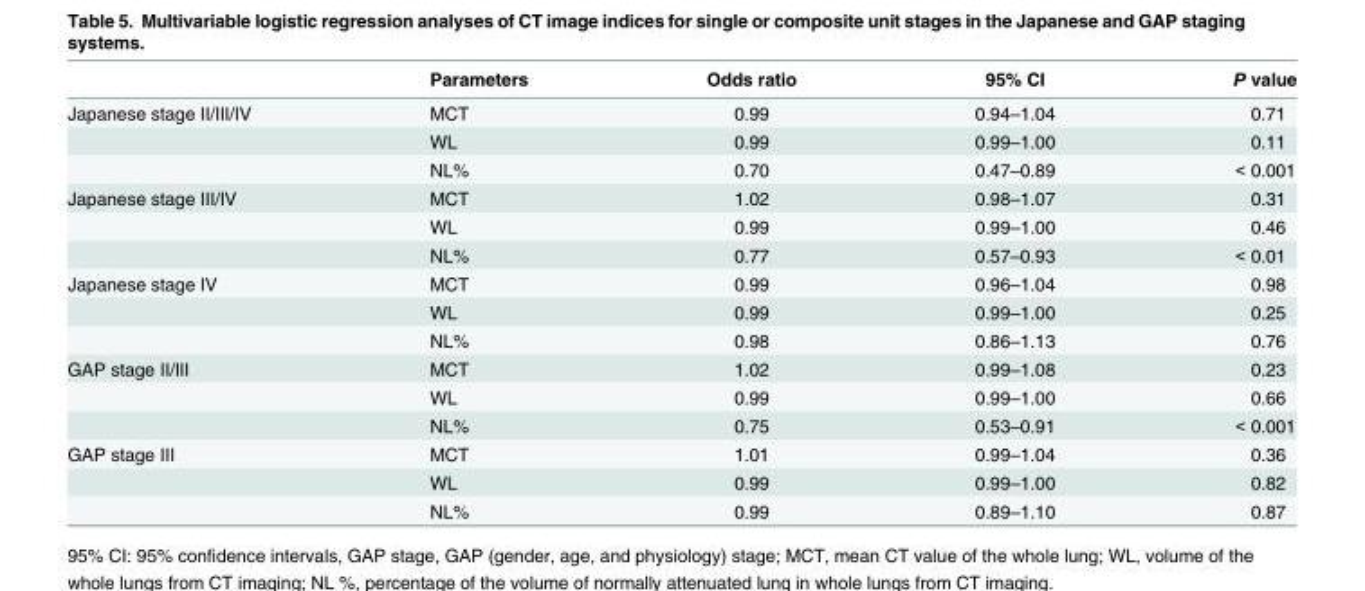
<table><thead><tr><td></td><td>Parameters</td><td>Odds ratio</td><td>95% CI</td><td>P value</td></tr></thead><tbody><tr><td rowspan="3">Japanese stage II/III/IV</td><td>MCT</td><td>0.99</td><td>0.94–1.04</td><td>0.71</td></tr><tr><td>WL</td><td>0.99</td><td>0.99–1.00</td><td>0.11</td></tr><tr><td>NL%</td><td>0.70</td><td>0.47–0.89</td><td>&lt; 0.001</td></tr><tr><td rowspan="3">Japanese stage III/IV</td><td>MCT</td><td>1.02</td><td>0.98–1.07</td><td>0.31</td></tr><tr><td>WL</td><td>0.99</td><td>0.99–1.00</td><td>0.46</td></tr><tr><td>NL%</td><td>0.77</td><td>0.57–0.93</td><td>&lt; 0.01</td></tr><tr><td rowspan="3">Japanese stage IV</td><td>MCT</td><td>0.99</td><td>0.96–1.04</td><td>0.98</td></tr><tr><td>WL</td><td>0.99</td><td>0.99–1.00</td><td>0.25</td></tr><tr><td>NL%</td><td>0.98</td><td>0.86–1.13</td><td>0.76</td></tr><tr><td rowspan="3">GAP stage II/III</td><td>MCT</td><td>1.02</td><td>0.99–1.08</td><td>0.23</td></tr><tr><td>WL</td><td>0.99</td><td>0.99–1.00</td><td>0.66</td></tr><tr><td>NL%</td><td>0.75</td><td>0.53–0.91</td><td>&lt; 0.001</td></tr><tr><td rowspan="3">GAP stage III</td><td>MCT</td><td>1.01</td><td>0.99–1.04</td><td>0.36</td></tr><tr><td>WL</td><td>0.99</td><td>0.99–1.00</td><td>0.82</td></tr><tr><td>NL%</td><td>0.99</td><td>0.89–1.10</td><td>0.87</td></tr></tbody></table>